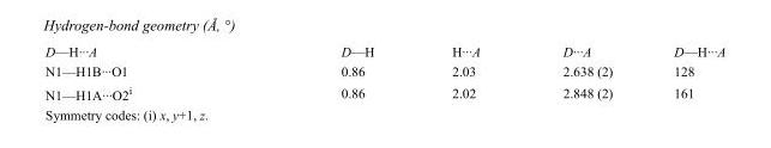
<table><tbody><tr><td>D—H···A</td><td>D—H</td><td>H···A</td><td>D···A</td><td>D—H···A</td></tr><tr><td>N1—H1B···O1</td><td>0.86</td><td>2.03</td><td>2.638 (2)</td><td>128</td></tr><tr><td>N1—H1A···O2<sup>i</sup></td><td>0.86</td><td>2.02</td><td>2.848 (2)</td><td>161</td></tr></tbody></table>